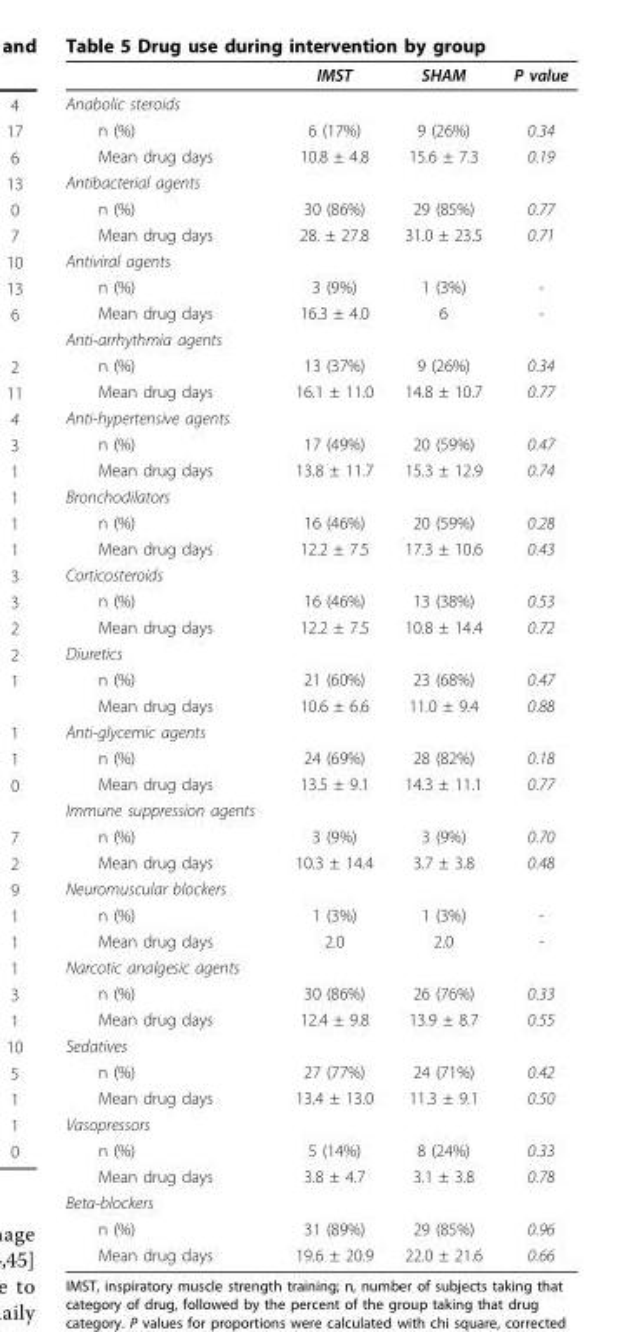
<table><thead><tr><td></td><td>IMST</td><td>SHAM</td><td>P value</td></tr></thead><tbody><tr><td colspan="4">Anabolic steroids</td></tr><tr><td>n (%)</td><td>6 (17%)</td><td>9 (26%)</td><td>0.34</td></tr><tr><td>Mean drug days</td><td>10.8 ± 4.8</td><td>15.6 ± 7.3</td><td>0.19</td></tr><tr><td colspan="4">Antibacterial agents</td></tr><tr><td>n (%)</td><td>30 (86%)</td><td>29 (85%)</td><td>0.77</td></tr><tr><td>Mean drug days</td><td>28. ± 27.8</td><td>31.0 ± 23.5</td><td>0.71</td></tr><tr><td colspan="4">Antiviral agents</td></tr><tr><td>n (%)</td><td>3 (9%)</td><td>1 (3%)</td><td>-</td></tr><tr><td>Mean drug days</td><td>16.3 ± 4.0</td><td>6</td><td>-</td></tr><tr><td colspan="4">Anti-arrhythmia agents</td></tr><tr><td>n (%)</td><td>13 (37%)</td><td>9 (26%)</td><td>0.34</td></tr><tr><td>Mean drug days</td><td>16.1 ± 11.0</td><td>14.8 ± 10.7</td><td>0.77</td></tr><tr><td colspan="4">Anti-hypertensive agents</td></tr><tr><td>n (%)</td><td>17 (49%)</td><td>20 (59%)</td><td>0.47</td></tr><tr><td>Mean drug days</td><td>13.8 ± 11.7</td><td>15.3 ± 12.9</td><td>0.74</td></tr><tr><td colspan="4">Bronchodilators</td></tr><tr><td>n (%)</td><td>16 (46%)</td><td>20 (59%)</td><td>0.28</td></tr><tr><td>Mean drug days</td><td>12.2 ± 7.5</td><td>17.3 ± 10.6</td><td>0.43</td></tr><tr><td colspan="4">Corticosteroids</td></tr><tr><td>n (%)</td><td>16 (46%)</td><td>13 (38%)</td><td>0.53</td></tr><tr><td>Mean drug days</td><td>12.2 ± 7.5</td><td>10.8 ± 14.4</td><td>0.72</td></tr><tr><td colspan="4">Diuretics</td></tr><tr><td>n (%)</td><td>21 (60%)</td><td>23 (68%)</td><td>0.47</td></tr><tr><td>Mean drug days</td><td>10.6 ± 6.6</td><td>11.0 ± 9.4</td><td>0.88</td></tr><tr><td colspan="4">Anti-glycemic agents</td></tr><tr><td>n (%)</td><td>24 (69%)</td><td>28 (82%)</td><td>0.18</td></tr><tr><td>Mean drug days</td><td>13.5 ± 9.1</td><td>14.3 ± 11.1</td><td>0.77</td></tr><tr><td colspan="4">Immune suppression agents</td></tr><tr><td>n (%)</td><td>3 (9%)</td><td>3 (9%)</td><td>0.70</td></tr><tr><td>Mean drug days</td><td>10.3 ± 14.4</td><td>3.7 ± 3.8</td><td>0.48</td></tr><tr><td colspan="4">Neuromuscular blockers</td></tr><tr><td>n (%)</td><td>1 (3%)</td><td>1 (3%)</td><td>-</td></tr><tr><td>Mean drug days</td><td>2.0</td><td>2.0</td><td>-</td></tr><tr><td colspan="4">Narcotic analgesic agents</td></tr><tr><td>n (%)</td><td>30 (86%)</td><td>26 (76%)</td><td>0.33</td></tr><tr><td>Mean drug days</td><td>12.4 ± 9.8</td><td>13.9 ± 8.7</td><td>0.55</td></tr><tr><td colspan="4">Sedatives</td></tr><tr><td>n (%)</td><td>27 (77%)</td><td>24 (71%)</td><td>0.42</td></tr><tr><td>Mean drug days</td><td>13.4 ± 13.0</td><td>11.3 ± 9.1</td><td>0.50</td></tr><tr><td colspan="4">Vasopressors</td></tr><tr><td>n (%)</td><td>5 (14%)</td><td>8 (24%)</td><td>0.33</td></tr><tr><td>Mean drug days</td><td>3.8 ± 4.7</td><td>3.1 ± 3.8</td><td>0.78</td></tr><tr><td colspan="4">Beta-blockers</td></tr><tr><td>n (%)</td><td>31 (89%)</td><td>29 (85%)</td><td>0.96</td></tr><tr><td>Mean drug days</td><td>19.6 ± 20.9</td><td>22.0 ± 21.6</td><td>0.66</td></tr></tbody></table>